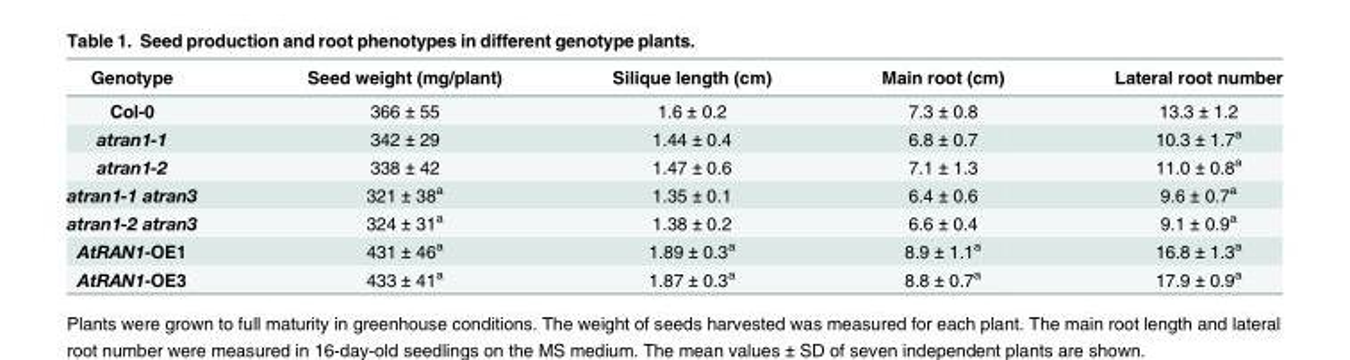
<table><thead><tr><td>Genotype</td><td>Seed weight (mg/plant)</td><td>Silique length (cm)</td><td>Main root (cm)</td><td>Lateral root number</td></tr></thead><tbody><tr><td>Col-0</td><td>366 ± 55</td><td>1.6 ± 0.2</td><td>7.3 ± 0.8</td><td>13.3 ± 1.2</td></tr><tr><td>atran1-1</td><td>342 ± 29</td><td>1.44 ± 0.4</td><td>6.8 ± 0.7</td><td>10.3 ± 1.7<sup>a</sup></td></tr><tr><td>atran1-2</td><td>338 ± 42</td><td>1.47 ± 0.6</td><td>7.1 ± 1.3</td><td>11.0 ± 0.8<sup>a</sup></td></tr><tr><td>atran1-1 atran3</td><td>321 ± 38<sup>a</sup></td><td>1.35 ± 0.1</td><td>6.4 ± 0.6</td><td>9.6 ± 0.7<sup>a</sup></td></tr><tr><td>atran1-2 atran3</td><td>324 ± 31<sup>a</sup></td><td>1.38 ± 0.2</td><td>6.6 ± 0.4</td><td>9.1 ± 0.9<sup>a</sup></td></tr><tr><td>AtRAN1-OE1</td><td>431 ± 46<sup>a</sup></td><td>1.89 ± 0.3<sup>a</sup></td><td>8.9 ± 1.1<sup>a</sup></td><td>16.8 ± 1.3<sup>a</sup></td></tr><tr><td>AtRAN1-OE3</td><td>433 ± 41<sup>a</sup></td><td>1.87 ± 0.3<sup>a</sup></td><td>8.8 ± 0.7<sup>a</sup></td><td>17.9 ± 0.9<sup>a</sup></td></tr></tbody></table>